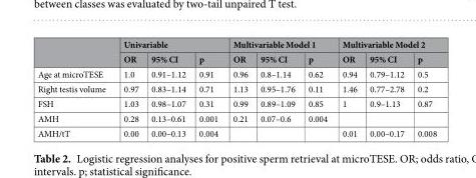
<table><thead><tr><td rowspan="2"></td><td colspan="3">Univariable</td><td colspan="3">Multivariable Model 1</td><td colspan="3">Multivariable Model 2</td></tr><tr><td>OR</td><td>95% CI</td><td>p</td><td>OR</td><td>95% CI</td><td>p</td><td>OR</td><td>95% CI</td><td>p</td></tr></thead><tbody><tr><td>Age at microTESE</td><td>1.0</td><td>0.91–1.12</td><td>0.91</td><td>0.96</td><td>0.8–1.14</td><td>0.62</td><td>0.94</td><td>0.79–1.12</td><td>0.5</td></tr><tr><td>Right testis volume</td><td>0.97</td><td>0.83–1.14</td><td>0.71</td><td>1.13</td><td>0.95–1.76</td><td>0.11</td><td>1.46</td><td>0.77–2.78</td><td>0.2</td></tr><tr><td>FSH</td><td>1.03</td><td>0.98–1.07</td><td>0.31</td><td>0.99</td><td>0.89–1.09</td><td>0.85</td><td>1</td><td>0.9–1.13</td><td>0.87</td></tr><tr><td>AMH</td><td>0.28</td><td>0.13–0.61</td><td>0.001</td><td>0.21</td><td>0.07–0.6</td><td>0.004</td><td></td><td></td><td></td></tr><tr><td>AMH/tT</td><td>0.00</td><td>0.00–0.13</td><td>0.004</td><td></td><td></td><td></td><td>0.01</td><td>0.00–0.17</td><td>0.008</td></tr></tbody></table>